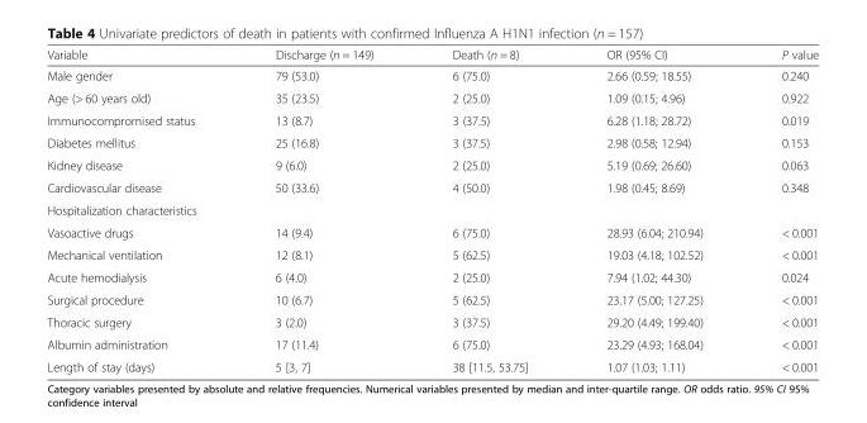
<table><thead><tr><td>Variable</td><td>Discharge (n = 149)</td><td>Death (n = 8)</td><td>OR (95% CI)</td><td>P value</td></tr></thead><tbody><tr><td>Male gender</td><td>79 (53.0)</td><td>6 (75.0)</td><td>2.66 (0.59; 18.55)</td><td>0.240</td></tr><tr><td>Age (&gt; 60 years old)</td><td>35 (23.5)</td><td>2 (25.0)</td><td>1.09 (0.15; 4.96)</td><td>0.922</td></tr><tr><td>Immunocompromised status</td><td>13 (8.7)</td><td>3 (37.5)</td><td>6.28 (1.18; 28.72)</td><td>0.019</td></tr><tr><td>Diabetes mellitus</td><td>25 (16.8)</td><td>3 (37.5)</td><td>2.98 (0.58; 12.94)</td><td>0.153</td></tr><tr><td>Kidney disease</td><td>9 (6.0)</td><td>2 (25.0)</td><td>5.19 (0.69; 26.60)</td><td>0.063</td></tr><tr><td>Cardiovascular disease</td><td>50 (33.6)</td><td>4 (50.0)</td><td>1.98 (0.45; 8.69)</td><td>0.348</td></tr><tr><td colspan="5">Hospitalization characteristics</td></tr><tr><td>Vasoactive drugs</td><td>14 (9.4)</td><td>6 (75.0)</td><td>28.93 (6.04; 210.94)</td><td>&lt; 0.001</td></tr><tr><td>Mechanical ventilation</td><td>12 (8.1)</td><td>5 (62.5)</td><td>19.03 (4.18; 102.52)</td><td>&lt; 0.001</td></tr><tr><td>Acute hemodialysis</td><td>6 (4.0)</td><td>2 (25.0)</td><td>7.94 (1.02; 44.30)</td><td>0.024</td></tr><tr><td>Surgical procedure</td><td>10 (6.7)</td><td>5 (62.5)</td><td>23.17 (5.00; 127.25)</td><td>&lt; 0.001</td></tr><tr><td>Thoracic surgery</td><td>3 (2.0)</td><td>3 (37.5)</td><td>29.20 (4.49; 199.40)</td><td>&lt; 0.001</td></tr><tr><td>Albumin administration</td><td>17 (11.4)</td><td>6 (75.0)</td><td>23.29 (4.93; 168.04)</td><td>&lt; 0.001</td></tr><tr><td>Length of stay (days)</td><td>5 [3, 7]</td><td>38 [11.5, 53.75]</td><td>1.07 (1.03; 1.11)</td><td>&lt; 0.001</td></tr></tbody></table>